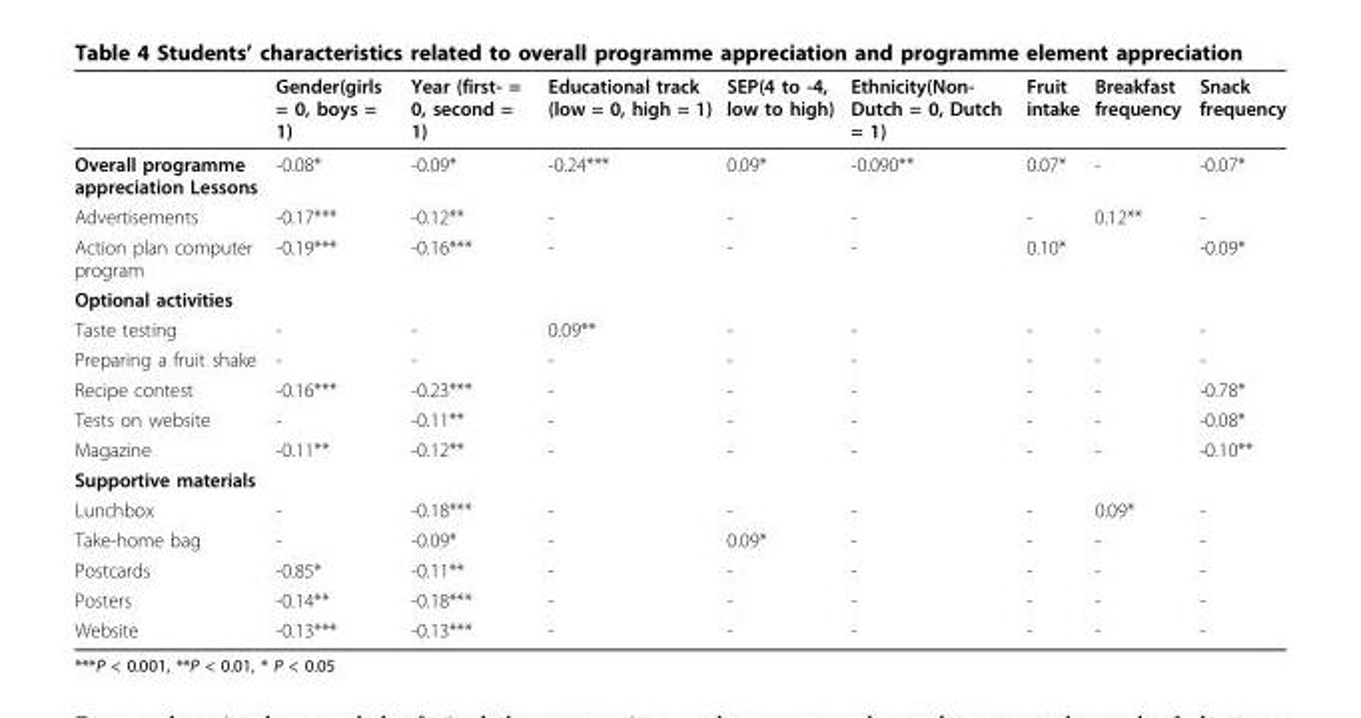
<table><thead><tr><td></td><td>Gender(girls = 0, boys = 1)</td><td>Year (first- = 0, second = 1)</td><td>Educational track (low = 0, high = 1)</td><td>SEP(4 to -4, low to high)</td><td>Ethnicity(Non- Dutch = 0, Dutch = 1)</td><td>Fruit intake</td><td>Breakfast frequency</td><td>Snack frequency</td></tr></thead><tbody><tr><td>Overall programme appreciation Lessons</td><td>-0.08*</td><td>-0.09*</td><td>-0.24***</td><td>0.09*</td><td>-0.090**</td><td>0.07*</td><td>-</td><td>-0.07*</td></tr><tr><td>Advertisements</td><td>-0.17***</td><td>-0.12**</td><td>-</td><td>-</td><td>-</td><td>-</td><td>0.12**</td><td>-</td></tr><tr><td>Action plan computer program</td><td>-0.19***</td><td>-0.16***</td><td>-</td><td>-</td><td>-</td><td>0.10*</td><td></td><td>-0.09*</td></tr><tr><td colspan="9">Optional activities</td></tr><tr><td>Taste testing</td><td>-</td><td>-</td><td>0.09**</td><td>-</td><td>-</td><td>-</td><td>-</td><td>-</td></tr><tr><td>Preparing a fruit shake</td><td>-</td><td>-</td><td>-</td><td>-</td><td>-</td><td>-</td><td>-</td><td>-</td></tr><tr><td>Recipe contest</td><td>-0.16***</td><td>-0.23***</td><td>-</td><td>-</td><td>-</td><td>-</td><td>-</td><td>-0.78*</td></tr><tr><td>Tests on website</td><td>-</td><td>-0.11**</td><td>-</td><td>-</td><td>-</td><td>-</td><td>-</td><td>-0.08*</td></tr><tr><td>Magazine</td><td>-0.11**</td><td>-0.12**</td><td>-</td><td>-</td><td>-</td><td>-</td><td>-</td><td>-0.10**</td></tr><tr><td colspan="9">Supportive materials</td></tr><tr><td>Lunchbox</td><td>-</td><td>-0.18***</td><td>-</td><td>-</td><td>-</td><td>-</td><td>0.09*</td><td>-</td></tr><tr><td>Take-home bag</td><td>-</td><td>-0.09*</td><td>-</td><td>0.09*</td><td>-</td><td>-</td><td>-</td><td>-</td></tr><tr><td>Postcards</td><td>-0.85*</td><td>-0.11**</td><td>-</td><td>-</td><td>-</td><td>-</td><td>-</td><td>-</td></tr><tr><td>Posters</td><td>-0.14**</td><td>-0.18***</td><td>-</td><td>-</td><td>-</td><td>-</td><td>-</td><td>-</td></tr><tr><td>Website</td><td>-0.13***</td><td>-0.13***</td><td>-</td><td>-</td><td>-</td><td>-</td><td>-</td><td>-</td></tr></tbody></table>